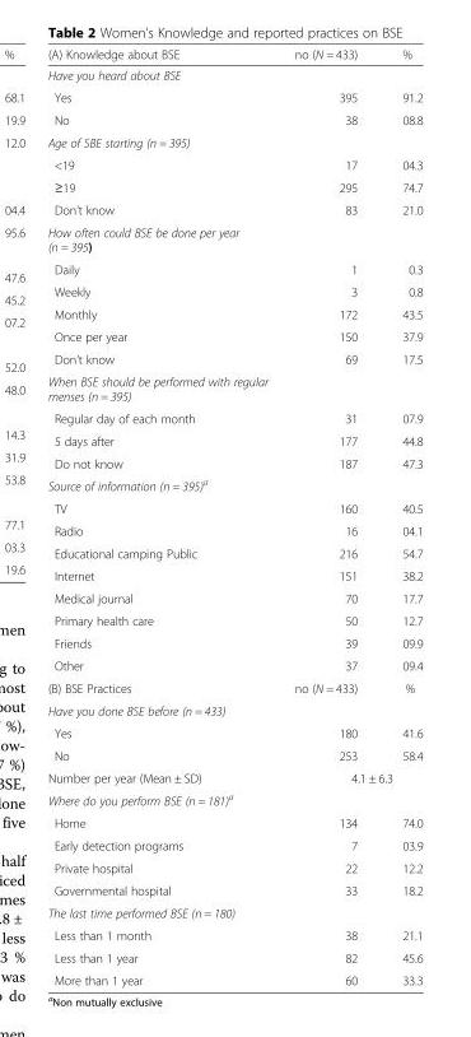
<table><thead><tr><td>(A) Knowledge about BSE</td><td>no (N = 433)</td><td>%</td></tr></thead><tbody><tr><td colspan="3">Have you heard about BSE</td></tr><tr><td>Yes</td><td>395</td><td>91.2</td></tr><tr><td>No</td><td>38</td><td>08.8</td></tr><tr><td colspan="3">Age of SBE starting (n = 395)</td></tr><tr><td>&lt;19</td><td>17</td><td>04.3</td></tr><tr><td>≥19</td><td>295</td><td>74.7</td></tr><tr><td>Don’t know</td><td>83</td><td>21.0</td></tr><tr><td colspan="3">How often could BSE be done per year (n = 395)</td></tr><tr><td>Daily</td><td>1</td><td>0.3</td></tr><tr><td>Weekly</td><td>3</td><td>0.8</td></tr><tr><td>Monthly</td><td>172</td><td>43.5</td></tr><tr><td>Once per year</td><td>150</td><td>37.9</td></tr><tr><td>Don’t know</td><td>69</td><td>17.5</td></tr><tr><td colspan="3">When BSE should be performed with regular menses (n = 395)</td></tr><tr><td>Regular day of each month</td><td>31</td><td>07.9</td></tr><tr><td>5 days after</td><td>177</td><td>44.8</td></tr><tr><td>Do not know</td><td>187</td><td>47.3</td></tr><tr><td colspan="3">Source of information (n = 395)<sup>a</sup></td></tr><tr><td>TV</td><td>160</td><td>40.5</td></tr><tr><td>Radio</td><td>16</td><td>04.1</td></tr><tr><td>Educational camping Public</td><td>216</td><td>54.7</td></tr><tr><td>Internet</td><td>151</td><td>38.2</td></tr><tr><td>Medical journal</td><td>70</td><td>17.7</td></tr><tr><td>Primary health care</td><td>50</td><td>12.7</td></tr><tr><td>Friends</td><td>39</td><td>09.9</td></tr><tr><td>Other</td><td>37</td><td>09.4</td></tr><tr><td>(B) BSE Practices</td><td>no (N = 433)</td><td>%</td></tr><tr><td colspan="3">Have you done BSE before (n = 433)</td></tr><tr><td>Yes</td><td>180</td><td>41.6</td></tr><tr><td>No</td><td>253</td><td>58.4</td></tr><tr><td>Number per year (Mean ± SD)</td><td>4.1 ± 6.3</td><td></td></tr><tr><td colspan="3">Where do you perform BSE (n = 181)<sup>a</sup></td></tr><tr><td>Home</td><td>134</td><td>74.0</td></tr><tr><td>Early detection programs</td><td>7</td><td>03.9</td></tr><tr><td>Private hospital</td><td>22</td><td>12.2</td></tr><tr><td>Governmental hospital</td><td>33</td><td>18.2</td></tr><tr><td colspan="3">The last time performed BSE (n = 180)</td></tr><tr><td>Less than 1 month</td><td>38</td><td>21.1</td></tr><tr><td>Less than 1 year</td><td>82</td><td>45.6</td></tr><tr><td>More than 1 year</td><td>60</td><td>33.3</td></tr></tbody></table>